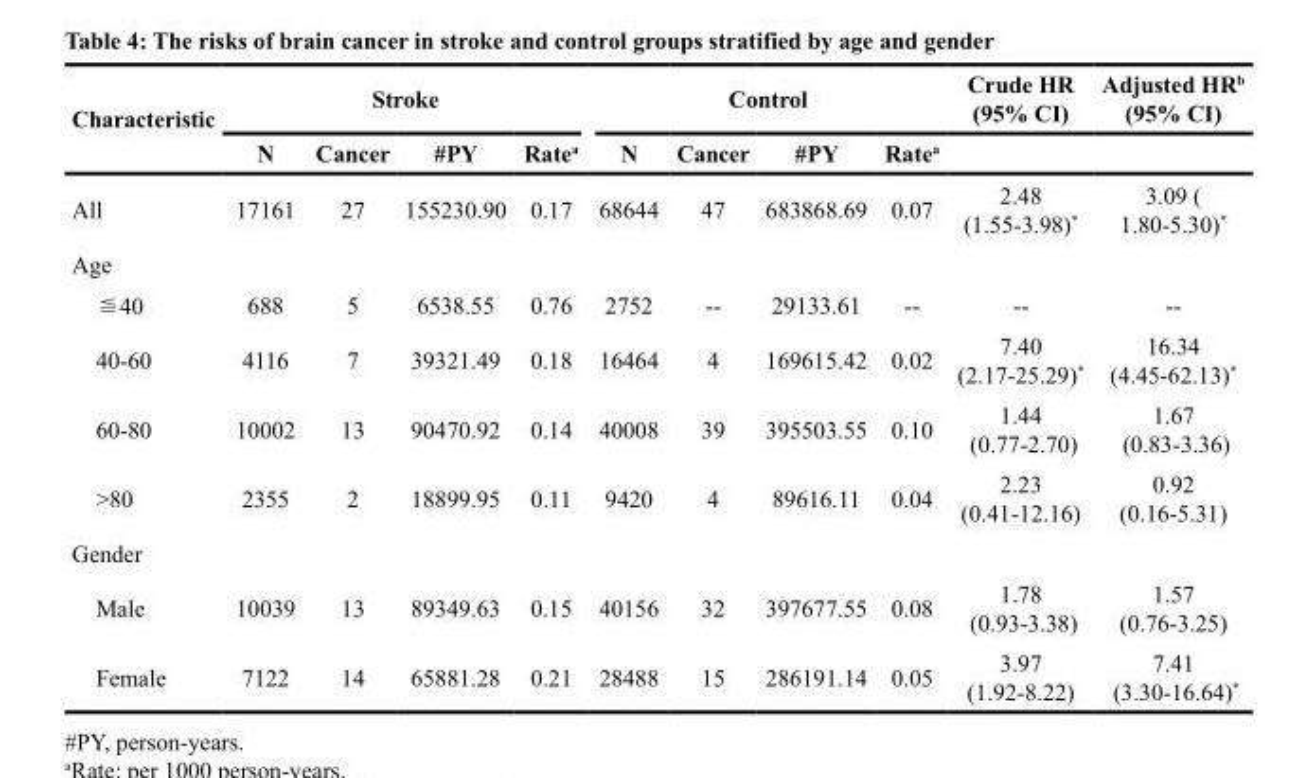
<table><thead><tr><td rowspan="2">Characteristic</td><td colspan="4">Stroke</td><td colspan="4">Control</td><td rowspan="2">Crude HR (95% CI)</td><td rowspan="2">Adjusted HR<sup>b</sup> (95% CI)</td></tr><tr><td>N</td><td>Cancer</td><td>#PY</td><td>Rate<sup>a</sup></td><td>N</td><td>Cancer</td><td>#PY</td><td>Rate<sup>a</sup></td></tr></thead><tbody><tr><td>All</td><td>17161</td><td>27</td><td>155230.90</td><td>0.17</td><td>68644</td><td>47</td><td>683868.69</td><td>0.07</td><td>2.48 (1.55-3.98)*</td><td>3.09 ( 1.80-5.30)*</td></tr><tr><td colspan="11">Age</td></tr><tr><td>≦40</td><td>688</td><td>5</td><td>6538.55</td><td>0.76</td><td>2752</td><td>--</td><td>29133.61</td><td>--</td><td>--</td><td>--</td></tr><tr><td>40-60</td><td>4116</td><td>7</td><td>39321.49</td><td>0.18</td><td>16464</td><td>4</td><td>169615.42</td><td>0.02</td><td>7.40 (2.17-25.29)*</td><td>16.34 (4.45-62.13)*</td></tr><tr><td>60-80</td><td>10002</td><td>13</td><td>90470.92</td><td>0.14</td><td>40008</td><td>39</td><td>395503.55</td><td>0.10</td><td>1.44 (0.77-2.70)</td><td>1.67 (0.83-3.36)</td></tr><tr><td>&gt;80</td><td>2355</td><td>2</td><td>18899.95</td><td>0.11</td><td>9420</td><td>4</td><td>89616.11</td><td>0.04</td><td>2.23 (0.41-12.16)</td><td>0.92 (0.16-5.31)</td></tr><tr><td colspan="11">Gender</td></tr><tr><td>Male</td><td>10039</td><td>13</td><td>89349.63</td><td>0.15</td><td>40156</td><td>32</td><td>397677.55</td><td>0.08</td><td>1.78 (0.93-3.38)</td><td>1.57 (0.76-3.25)</td></tr><tr><td>Female</td><td>7122</td><td>14</td><td>65881.28</td><td>0.21</td><td>28488</td><td>15</td><td>286191.14</td><td>0.05</td><td>3.97 (1.92-8.22)</td><td>7.41 (3.30-16.64)*</td></tr></tbody></table>